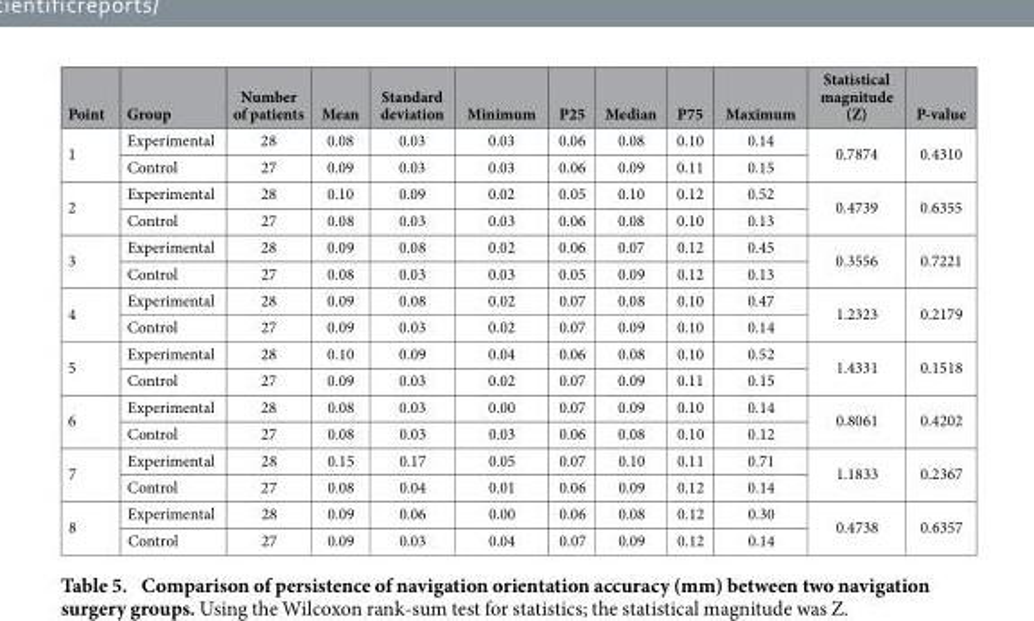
<table><thead><tr><td>Point</td><td>Group</td><td>Number of patients</td><td>Mean</td><td>Standard deviation</td><td>Minimum</td><td>P25</td><td>Median</td><td>P75</td><td>Maximum</td><td>Statistical magnitude (Z)</td><td>P-value</td></tr></thead><tbody><tr><td rowspan="2">1</td><td>Experimental</td><td>28</td><td>0.08</td><td>0.03</td><td>0.03</td><td>0.06</td><td>0.08</td><td>0.10</td><td>0.14</td><td rowspan="2">0.7874</td><td rowspan="2">0.4310</td></tr><tr><td>Control</td><td>27</td><td>0.09</td><td>0.03</td><td>0.03</td><td>0.06</td><td>0.09</td><td>0.11</td><td>0.15</td></tr><tr><td rowspan="2">2</td><td>Experimental</td><td>28</td><td>0.10</td><td>0.09</td><td>0.02</td><td>0.05</td><td>0.10</td><td>0.12</td><td>0.52</td><td rowspan="2">0.4739</td><td rowspan="2">0.6355</td></tr><tr><td>Control</td><td>27</td><td>0.08</td><td>0.03</td><td>0.03</td><td>0.06</td><td>0.08</td><td>0.10</td><td>0.13</td></tr><tr><td rowspan="2">3</td><td>Experimental</td><td>28</td><td>0.09</td><td>0.08</td><td>0.02</td><td>0.06</td><td>0.07</td><td>0.12</td><td>0.45</td><td rowspan="2">0.3556</td><td rowspan="2">0.7221</td></tr><tr><td>Control</td><td>27</td><td>0.08</td><td>0.03</td><td>0.03</td><td>0.05</td><td>0.09</td><td>0.12</td><td>0.13</td></tr><tr><td rowspan="2">4</td><td>Experimental</td><td>28</td><td>0.09</td><td>0.08</td><td>0.02</td><td>0.07</td><td>0.08</td><td>0.10</td><td>0.47</td><td rowspan="2">1.2323</td><td rowspan="2">0.2179</td></tr><tr><td>Control</td><td>27</td><td>0.09</td><td>0.03</td><td>0.02</td><td>0.07</td><td>0.09</td><td>0.10</td><td>0.14</td></tr><tr><td rowspan="2">5</td><td>Experimental</td><td>28</td><td>0.10</td><td>0.09</td><td>0.04</td><td>0.06</td><td>0.08</td><td>0.10</td><td>0.52</td><td rowspan="2">1.4331</td><td rowspan="2">0.1518</td></tr><tr><td>Control</td><td>27</td><td>0.09</td><td>0.03</td><td>0.02</td><td>0.07</td><td>0.09</td><td>0.11</td><td>0.15</td></tr><tr><td rowspan="2">6</td><td>Experimental</td><td>28</td><td>0.08</td><td>0.03</td><td>0.00</td><td>0.07</td><td>0.09</td><td>0.10</td><td>0.14</td><td rowspan="2">0.8061</td><td rowspan="2">0.4202</td></tr><tr><td>Control</td><td>27</td><td>0.08</td><td>0.03</td><td>0.03</td><td>0.06</td><td>0.08</td><td>0.10</td><td>0.12</td></tr><tr><td rowspan="2">7</td><td>Experimental</td><td>28</td><td>0.15</td><td>0.17</td><td>0.05</td><td>0.07</td><td>0.10</td><td>0.11</td><td>0.71</td><td rowspan="2">1.1833</td><td rowspan="2">0.2367</td></tr><tr><td>Control</td><td>27</td><td>0.08</td><td>0.04</td><td>0.01</td><td>0.06</td><td>0.09</td><td>0.12</td><td>0.14</td></tr><tr><td rowspan="2">8</td><td>Experimental</td><td>28</td><td>0.09</td><td>0.06</td><td>0.00</td><td>0.06</td><td>0.08</td><td>0.12</td><td>0.30</td><td rowspan="2">0.4738</td><td rowspan="2">0.6357</td></tr><tr><td>Control</td><td>27</td><td>0.09</td><td>0.03</td><td>0.04</td><td>0.07</td><td>0.09</td><td>0.12</td><td>0.14</td></tr></tbody></table>